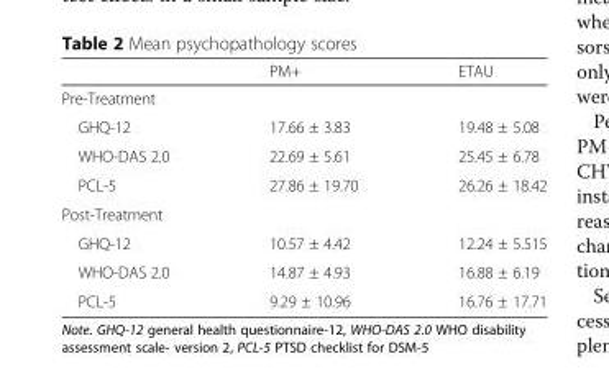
<table><thead><tr><td></td><td>PM+</td><td>ETAU</td></tr></thead><tbody><tr><td colspan="3">Pre-Treatment</td></tr><tr><td>GHQ-12</td><td>17.66 ± 3.83</td><td>19.48 ± 5.08</td></tr><tr><td>WHO-DAS 2.0</td><td>22.69 ± 5.61</td><td>25.45 ± 6.78</td></tr><tr><td>PCL-5</td><td>27.86 ± 19.70</td><td>26.26 ± 18.42</td></tr><tr><td colspan="3">Post-Treatment</td></tr><tr><td>GHQ-12</td><td>10.57 ± 4.42</td><td>12.24 ± 5.515</td></tr><tr><td>WHO-DAS 2.0</td><td>14.87 ± 4.93</td><td>16.88 ± 6.19</td></tr><tr><td>PCL-5</td><td>9.29 ± 10.96</td><td>16.76 ± 17.71</td></tr></tbody></table>